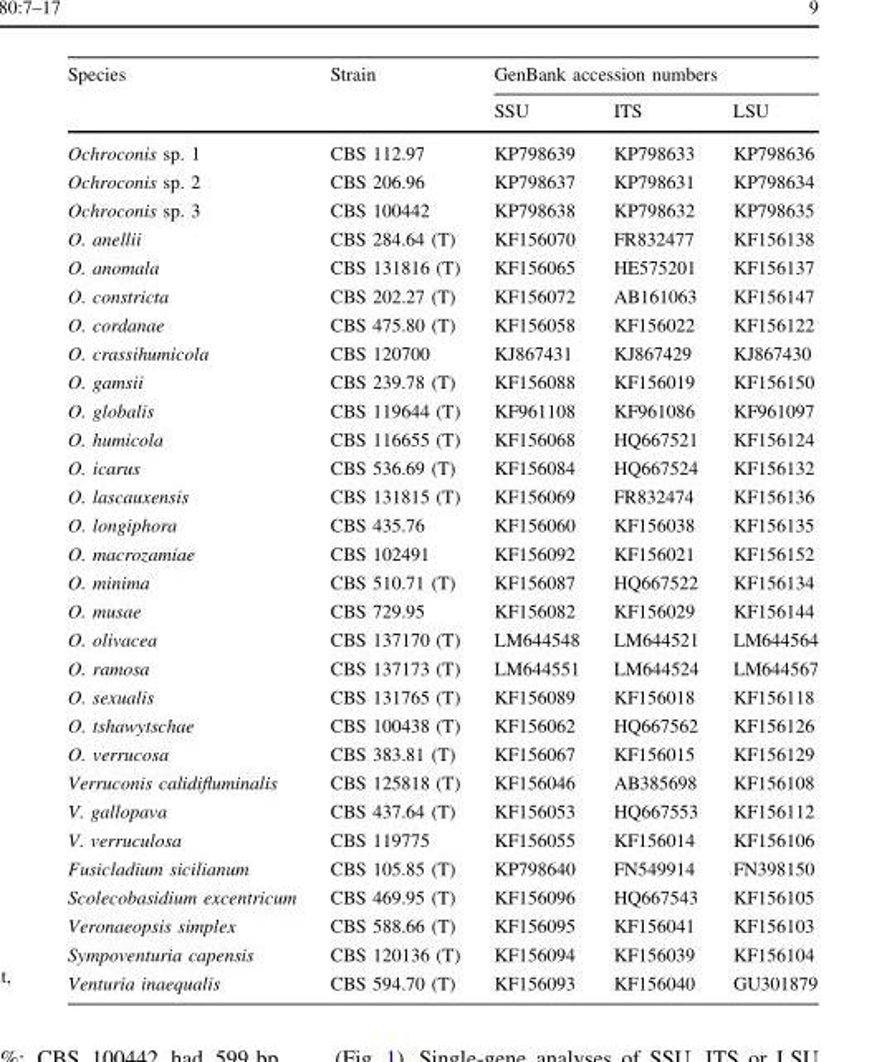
<table><thead><tr><td rowspan="2">Species</td><td rowspan="2">Strain</td><td colspan="3">GenBank accession numbers</td></tr><tr><td>SSU</td><td>ITS</td><td>LSU</td></tr></thead><tbody><tr><td>Ochroconis sp. 1</td><td>CBS 112.97</td><td>KP798639</td><td>KP798633</td><td>KP798636</td></tr><tr><td>Ochroconis sp. 2</td><td>CBS 206.96</td><td>KP798637</td><td>KP798631</td><td>KP798634</td></tr><tr><td>Ochroconis sp. 3</td><td>CBS 100442</td><td>KP798638</td><td>KP798632</td><td>KP798635</td></tr><tr><td>O. anellii</td><td>CBS 284.64 (T)</td><td>KF156070</td><td>FR832477</td><td>KF156138</td></tr><tr><td>O. anomala</td><td>CBS 131816 (T)</td><td>KF156065</td><td>HE575201</td><td>KF156137</td></tr><tr><td>O. constricta</td><td>CBS 202.27 (T)</td><td>KF156072</td><td>AB161063</td><td>KF156147</td></tr><tr><td>O. cordanae</td><td>CBS 475.80 (T)</td><td>KF156058</td><td>KF156022</td><td>KF156122</td></tr><tr><td>O. crassihumicola</td><td>CBS 120700</td><td>KJ867431</td><td>KJ867429</td><td>KJ867430</td></tr><tr><td>O. gamsii</td><td>CBS 239.78 (T)</td><td>KF156088</td><td>KF156019</td><td>KF156150</td></tr><tr><td>O. globalis</td><td>CBS 119644 (T)</td><td>KF961108</td><td>KF961086</td><td>KF961097</td></tr><tr><td>O. humicola</td><td>CBS 116655 (T)</td><td>KF156068</td><td>HQ667521</td><td>KF156124</td></tr><tr><td>O. icarus</td><td>CBS 536.69 (T)</td><td>KF156084</td><td>HQ667524</td><td>KF156132</td></tr><tr><td>O. lascauxensis</td><td>CBS 131815 (T)</td><td>KF156069</td><td>FR832474</td><td>KF156136</td></tr><tr><td>O. longiphora</td><td>CBS 435.76</td><td>KF156060</td><td>KF156038</td><td>KF156135</td></tr><tr><td>O. macrozamiae</td><td>CBS 102491</td><td>KF156092</td><td>KF156021</td><td>KF156152</td></tr><tr><td>O. minima</td><td>CBS 510.71 (T)</td><td>KF156087</td><td>HQ667522</td><td>KF156134</td></tr><tr><td>O. musae</td><td>CBS 729.95</td><td>KF156082</td><td>KF156029</td><td>KF156144</td></tr><tr><td>O. olivacea</td><td>CBS 137170 (T)</td><td>LM644548</td><td>LM644521</td><td>LM644564</td></tr><tr><td>O. ramosa</td><td>CBS 137173 (T)</td><td>LM644551</td><td>LM644524</td><td>LM644567</td></tr><tr><td>O. sexualis</td><td>CBS 131765 (T)</td><td>KF156089</td><td>KF156018</td><td>KF156118</td></tr><tr><td>O. tshawytschae</td><td>CBS 100438 (T)</td><td>KF156062</td><td>HQ667562</td><td>KF156126</td></tr><tr><td>O. verrucosa</td><td>CBS 383.81 (T)</td><td>KF156067</td><td>KF156015</td><td>KF156129</td></tr><tr><td>Verruconis calidifluminalis</td><td>CBS 125818 (T)</td><td>KF156046</td><td>AB385698</td><td>KF156108</td></tr><tr><td>V. gallopava</td><td>CBS 437.64 (T)</td><td>KF156053</td><td>HQ667553</td><td>KF156112</td></tr><tr><td>V. verruculosa</td><td>CBS 119775</td><td>KF156055</td><td>KF156014</td><td>KF156106</td></tr><tr><td>Fusicladium sicilianum</td><td>CBS 105.85 (T)</td><td>KP798640</td><td>FN549914</td><td>FN398150</td></tr><tr><td>Scolecobasidium excentricum</td><td>CBS 469.95 (T)</td><td>KF156096</td><td>HQ667543</td><td>KF156105</td></tr><tr><td>Veronaeopsis simplex</td><td>CBS 588.66 (T)</td><td>KF156095</td><td>KF156041</td><td>KF156103</td></tr><tr><td>Sympoventuria capensis</td><td>CBS 120136 (T)</td><td>KF156094</td><td>KF156039</td><td>KF156104</td></tr><tr><td>Venturia inaequalis</td><td>CBS 594.70 (T)</td><td>KF156093</td><td>KF156040</td><td>GU301879</td></tr></tbody></table>